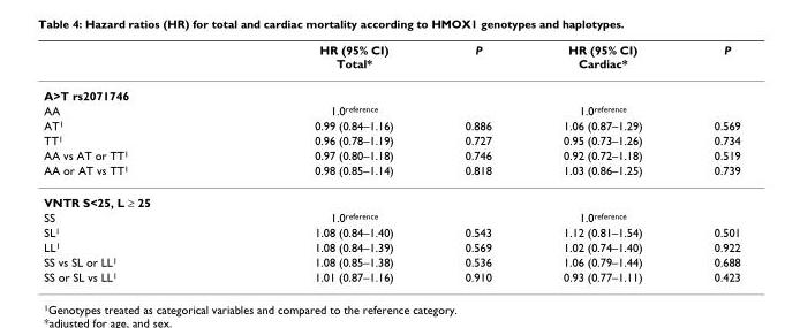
<table><thead><tr><td></td><td>HR (95% CI) Total*</td><td>P</td><td>HR (95% CI) Cardiac*</td><td>P</td></tr></thead><tbody><tr><td colspan="5">A&gt;T rs2071746</td></tr><tr><td>AA</td><td>1.0<sup>reference</sup></td><td></td><td>1.0<sup>reference</sup></td><td></td></tr><tr><td>AT<sup>1</sup></td><td>0.99 (0.84–1.16)</td><td>0.886</td><td>1.06 (0.87–1.29)</td><td>0.569</td></tr><tr><td>TT<sup>1</sup></td><td>0.96 (0.78–1.19)</td><td>0.727</td><td>0.95 (0.73–1.26)</td><td>0.734</td></tr><tr><td>AA vs AT or TT<sup>1</sup></td><td>0.97 (0.80–1.18)</td><td>0.746</td><td>0.92 (0.72–1.18)</td><td>0.519</td></tr><tr><td>AA or AT vs TT<sup>1</sup></td><td>0.98 (0.85–1.14)</td><td>0.818</td><td>1.03 (0.86–1.25)</td><td>0.739</td></tr><tr><td colspan="5">VNTR S&lt;25, L ≥ 25</td></tr><tr><td>SS</td><td>1.0<sup>reference</sup></td><td></td><td>1.0<sup>reference</sup></td><td></td></tr><tr><td>SL<sup>1</sup></td><td>1.08 (0.84–1.40)</td><td>0.543</td><td>1.12 (0.81–1.54)</td><td>0.501</td></tr><tr><td>LL<sup>1</sup></td><td>1.08 (0.84–1.39)</td><td>0.569</td><td>1.02 (0.74–1.40)</td><td>0.922</td></tr><tr><td>SS vs SL or LL<sup>1</sup></td><td>1.08 (0.85–1.38)</td><td>0.536</td><td>1.06 (0.79–1.44)</td><td>0.688</td></tr><tr><td>SS or SL vs LL<sup>1</sup></td><td>1.01 (0.87–1.16)</td><td>0.910</td><td>0.93 (0.77–1.11)</td><td>0.423</td></tr></tbody></table>